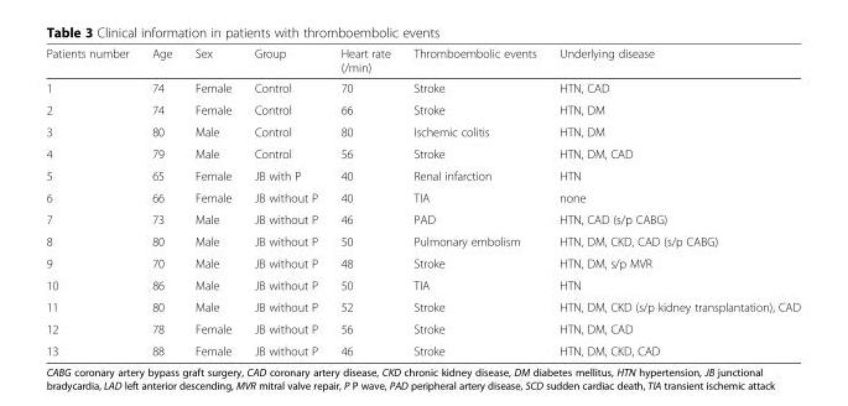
<table><thead><tr><td>Patients number</td><td>Age</td><td>Sex</td><td>Group</td><td>Heart rate (/min)</td><td>Thromboembolic events</td><td>Underlying disease</td></tr></thead><tbody><tr><td>1</td><td>74</td><td>Female</td><td>Control</td><td>70</td><td>Stroke</td><td>HTN, CAD</td></tr><tr><td>2</td><td>74</td><td>Female</td><td>Control</td><td>66</td><td>Stroke</td><td>HTN, DM</td></tr><tr><td>3</td><td>80</td><td>Male</td><td>Control</td><td>80</td><td>Ischemic colitis</td><td>HTN, DM</td></tr><tr><td>4</td><td>79</td><td>Male</td><td>Control</td><td>56</td><td>Stroke</td><td>HTN, DM, CAD</td></tr><tr><td>5</td><td>65</td><td>Female</td><td>JB with P</td><td>40</td><td>Renal infarction</td><td>HTN</td></tr><tr><td>6</td><td>66</td><td>Female</td><td>JB without P</td><td>40</td><td>TIA</td><td>none</td></tr><tr><td>7</td><td>73</td><td>Male</td><td>JB without P</td><td>46</td><td>PAD</td><td>HTN, CAD (s/p CABG)</td></tr><tr><td>8</td><td>80</td><td>Male</td><td>JB without P</td><td>50</td><td>Pulmonary embolism</td><td>HTN, DM, CKD, CAD (s/p CABG)</td></tr><tr><td>9</td><td>70</td><td>Male</td><td>JB without P</td><td>48</td><td>Stroke</td><td>HTN, DM, s/p MVR</td></tr><tr><td>10</td><td>86</td><td>Male</td><td>JB without P</td><td>50</td><td>TIA</td><td>HTN</td></tr><tr><td>11</td><td>80</td><td>Male</td><td>JB without P</td><td>52</td><td>Stroke</td><td>HTN, DM, CKD (s/p kidney transplantation), CAD</td></tr><tr><td>12</td><td>78</td><td>Female</td><td>JB without P</td><td>56</td><td>Stroke</td><td>HTN, DM, CAD</td></tr><tr><td>13</td><td>88</td><td>Female</td><td>JB without P</td><td>46</td><td>Stroke</td><td>HTN, DM, CKD, CAD</td></tr></tbody></table>